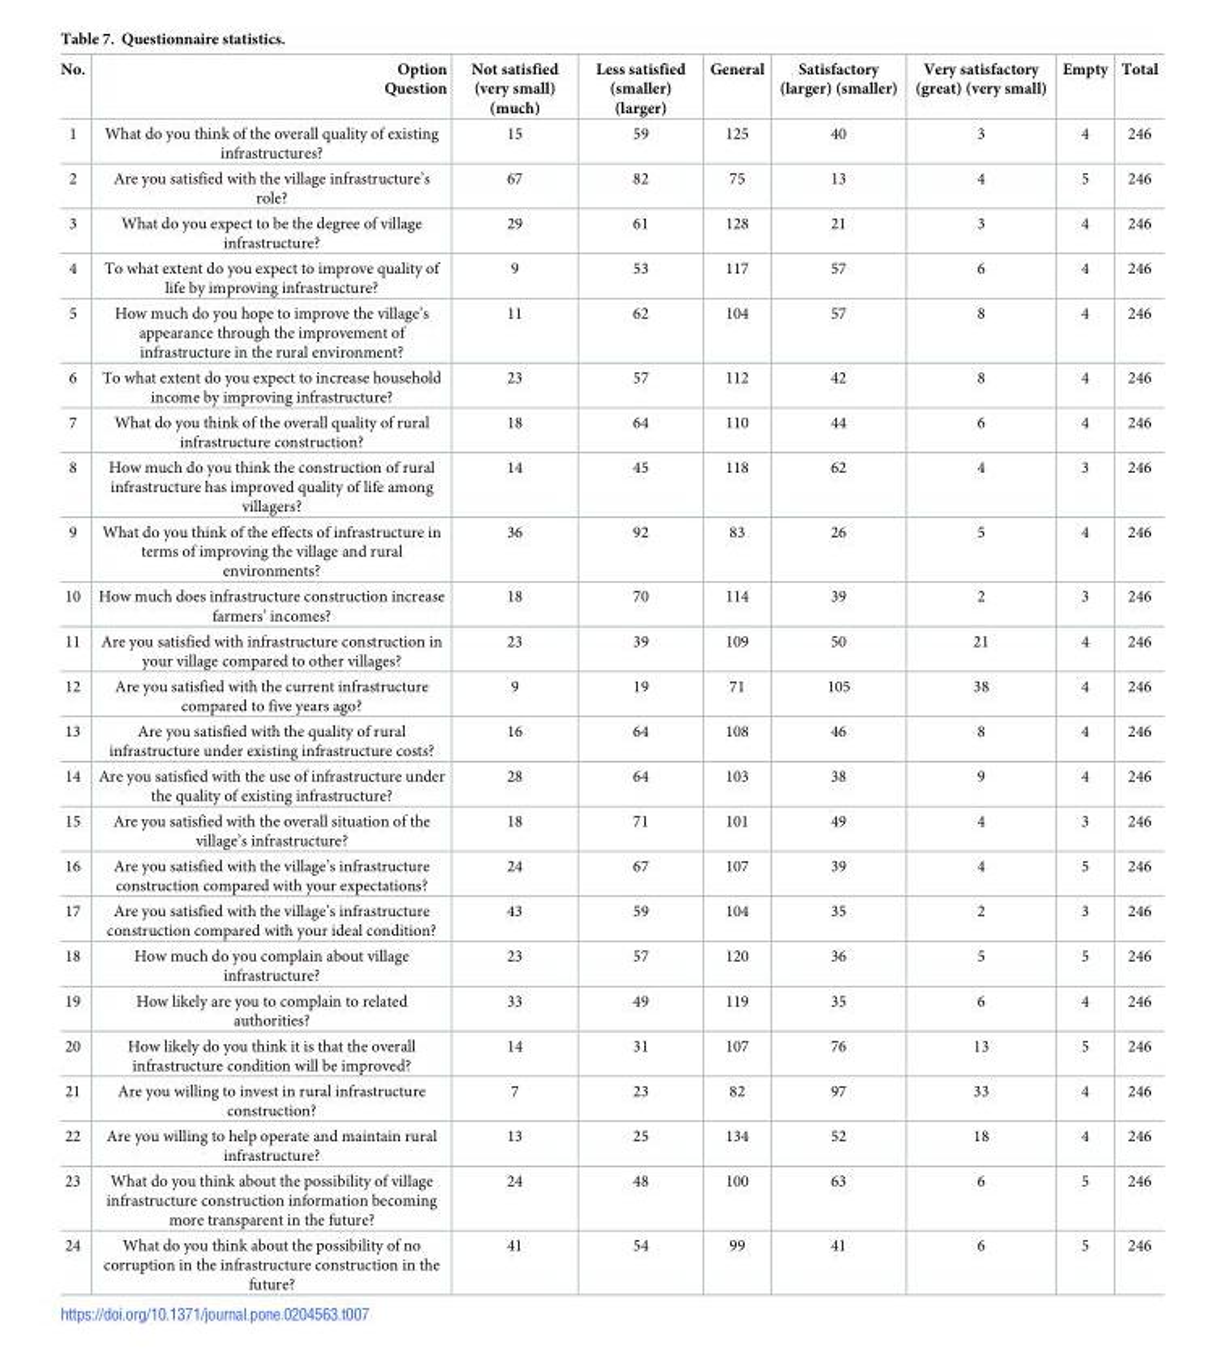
<table><thead><tr><td>No.</td><td>Option Question</td><td>Not satisfied (very small) (much)</td><td>Less satisfied (smaller) (larger)</td><td>General</td><td>Satisfactory (larger) (smaller)</td><td>Very satisfactory (great) (very small)</td><td>Empty</td><td>Total</td></tr></thead><tbody><tr><td>1</td><td>What do you think of the overall quality of existing infrastructures?</td><td>15</td><td>59</td><td>125</td><td>40</td><td>3</td><td>4</td><td>246</td></tr><tr><td>2</td><td>Are you satisfied with the village infrastructure’s role?</td><td>67</td><td>82</td><td>75</td><td>13</td><td>4</td><td>5</td><td>246</td></tr><tr><td>3</td><td>What do you expect to be the degree of village infrastructure?</td><td>29</td><td>61</td><td>128</td><td>21</td><td>3</td><td>4</td><td>246</td></tr><tr><td>4</td><td>To what extent do you expect to improve quality of life by improving infrastructure?</td><td>9</td><td>53</td><td>117</td><td>57</td><td>6</td><td>4</td><td>246</td></tr><tr><td>5</td><td>How much do you hope to improve the village’s appearance through the improvement of infrastructure in the rural environment?</td><td>11</td><td>62</td><td>104</td><td>57</td><td>8</td><td>4</td><td>246</td></tr><tr><td>6</td><td>To what extent do you expect to increase household income by improving infrastructure?</td><td>23</td><td>57</td><td>112</td><td>42</td><td>8</td><td>4</td><td>246</td></tr><tr><td>7</td><td>What do you think of the overall quality of rural infrastructure construction?</td><td>18</td><td>64</td><td>110</td><td>44</td><td>6</td><td>4</td><td>246</td></tr><tr><td>8</td><td>How much do you think the construction of rural infrastructure has improved quality of life among villagers?</td><td>14</td><td>45</td><td>118</td><td>62</td><td>4</td><td>3</td><td>246</td></tr><tr><td>9</td><td>What do you think of the effects of infrastructure in terms of improving the village and rural environments?</td><td>36</td><td>92</td><td>83</td><td>26</td><td>5</td><td>4</td><td>246</td></tr><tr><td>10</td><td>How much does infrastructure construction increase farmers’ incomes?</td><td>18</td><td>70</td><td>114</td><td>39</td><td>2</td><td>3</td><td>246</td></tr><tr><td>11</td><td>Are you satisfied with infrastructure construction in your village compared to other villages?</td><td>23</td><td>39</td><td>109</td><td>50</td><td>21</td><td>4</td><td>246</td></tr><tr><td>12</td><td>Are you satisfied with the current infrastructure compared to five years ago?</td><td>9</td><td>19</td><td>71</td><td>105</td><td>38</td><td>4</td><td>246</td></tr><tr><td>13</td><td>Are you satisfied with the quality of rural infrastructure under existing infrastructure costs?</td><td>16</td><td>64</td><td>108</td><td>46</td><td>8</td><td>4</td><td>246</td></tr><tr><td>14</td><td>Are you satisfied with the use of infrastructure under the quality of existing infrastructure?</td><td>28</td><td>64</td><td>103</td><td>38</td><td>9</td><td>4</td><td>246</td></tr><tr><td>15</td><td>Are you satisfied with the overall situation of the village’s infrastructure?</td><td>18</td><td>71</td><td>101</td><td>49</td><td>4</td><td>3</td><td>246</td></tr><tr><td>16</td><td>Are you satisfied with the village’s infrastructure construction compared with your expectations?</td><td>24</td><td>67</td><td>107</td><td>39</td><td>4</td><td>5</td><td>246</td></tr><tr><td>17</td><td>Are you satisfied with the village’s infrastructure construction compared with your ideal condition?</td><td>43</td><td>59</td><td>104</td><td>35</td><td>2</td><td>3</td><td>246</td></tr><tr><td>18</td><td>How much do you complain about village infrastructure?</td><td>23</td><td>57</td><td>120</td><td>36</td><td>5</td><td>5</td><td>246</td></tr><tr><td>19</td><td>How likely are you to complain to related authorities?</td><td>33</td><td>49</td><td>119</td><td>35</td><td>6</td><td>4</td><td>246</td></tr><tr><td>20</td><td>How likely do you think it is that the overall infrastructure condition will be improved?</td><td>14</td><td>31</td><td>107</td><td>76</td><td>13</td><td>5</td><td>246</td></tr><tr><td>21</td><td>Are you willing to invest in rural infrastructure construction?</td><td>7</td><td>23</td><td>82</td><td>97</td><td>33</td><td>4</td><td>246</td></tr><tr><td>22</td><td>Are you willing to help operate and maintain rural infrastructure?</td><td>13</td><td>25</td><td>134</td><td>52</td><td>18</td><td>4</td><td>246</td></tr><tr><td>23</td><td>What do you think about the possibility of village infrastructure construction information becoming more transparent in the future?</td><td>24</td><td>48</td><td>100</td><td>63</td><td>6</td><td>5</td><td>246</td></tr><tr><td>24</td><td>What do you think about the possibility of no corruption in the infrastructure construction in the future?</td><td>41</td><td>54</td><td>99</td><td>41</td><td>6</td><td>5</td><td>246</td></tr></tbody></table>